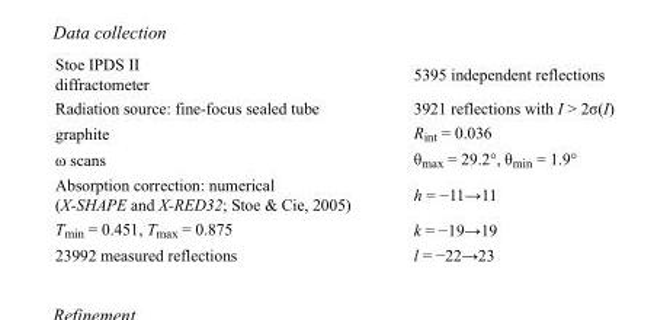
<table><tbody><tr><td>Stoe IPDS II diffractometer</td><td>5395 independent reflections</td></tr><tr><td>Radiation source: fine-focus sealed tube</td><td>3921 reflections with I &gt; 2σ(I)</td></tr><tr><td>graphite</td><td>R<sub>int</sub> = 0.036</td></tr><tr><td>ω scans</td><td>θ<sub>max</sub> = 29.2°, θ<sub>min</sub> = 1.9°</td></tr><tr><td>Absorption correction: numerical (X-SHAPE and X-RED32; Stoe &amp; Cie, 2005)</td><td>h = −11→11</td></tr><tr><td>T<sub>min</sub> = 0.451, T<sub>max</sub> = 0.875</td><td>k = −19→19</td></tr><tr><td>23992 measured reflections</td><td>l = −22→23</td></tr></tbody></table>